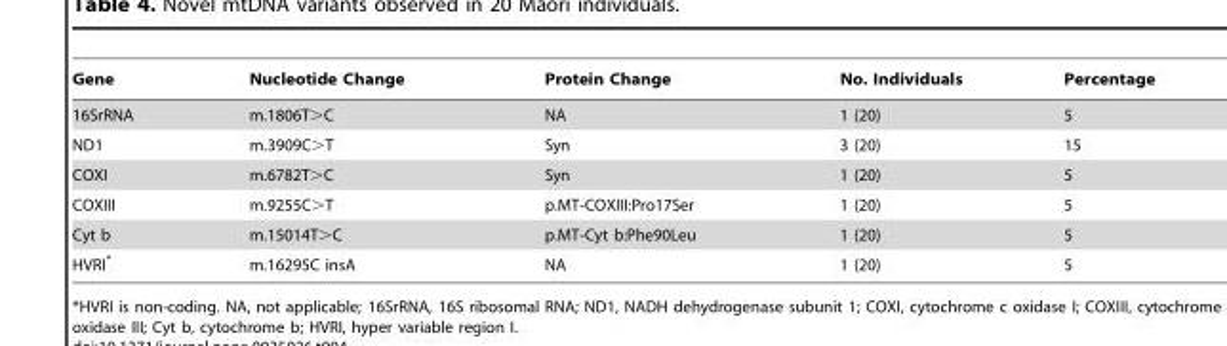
<table><thead><tr><td>Gene</td><td>Nucleotide Change</td><td>Protein Change</td><td>No. Individuals</td><td>Percentage</td></tr></thead><tbody><tr><td>16SrRNA</td><td>m.1806T&gt;C</td><td>NA</td><td>1 (20)</td><td>5</td></tr><tr><td>ND1</td><td>m.3909C&gt;T</td><td>Syn</td><td>3 (20)</td><td>15</td></tr><tr><td>COXI</td><td>m.6782T&gt;C</td><td>Syn</td><td>1 (20)</td><td>5</td></tr><tr><td>COXIII</td><td>m.9255C&gt;T</td><td>p.MT-COXIII:Pro17Ser</td><td>1 (20)</td><td>5</td></tr><tr><td>Cyt b</td><td>m.15014T&gt;C</td><td>p.MT-Cyt b:Phe90Leu</td><td>1 (20)</td><td>5</td></tr><tr><td>HVRI*</td><td>m.16295C insA</td><td>NA</td><td>1 (20)</td><td>5</td></tr></tbody></table>